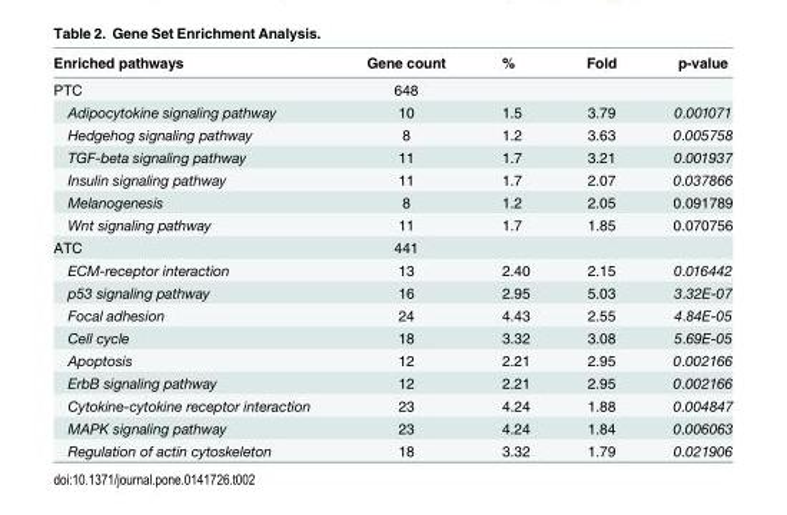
<table><thead><tr><td>Enriched pathways</td><td>Gene count</td><td>%</td><td>Fold</td><td>p-value</td></tr></thead><tbody><tr><td>PTC</td><td>648</td><td></td><td></td><td></td></tr><tr><td>Adipocytokine signaling pathway</td><td>10</td><td>1.5</td><td>3.79</td><td>0.001071</td></tr><tr><td>Hedgehog signaling pathway</td><td>8</td><td>1.2</td><td>3.63</td><td>0.005758</td></tr><tr><td>TGF-beta signaling pathway</td><td>11</td><td>1.7</td><td>3.21</td><td>0.001937</td></tr><tr><td>Insulin signaling pathway</td><td>11</td><td>1.7</td><td>2.07</td><td>0.037866</td></tr><tr><td>Melanogenesis</td><td>8</td><td>1.2</td><td>2.05</td><td>0.091789</td></tr><tr><td>Wnt signaling pathway</td><td>11</td><td>1.7</td><td>1.85</td><td>0.070756</td></tr><tr><td>ATC</td><td>441</td><td></td><td></td><td></td></tr><tr><td>ECM-receptor interaction</td><td>13</td><td>2.40</td><td>2.15</td><td>0.016442</td></tr><tr><td>p53 signaling pathway</td><td>16</td><td>2.95</td><td>5.03</td><td>3.32E-07</td></tr><tr><td>Focal adhesion</td><td>24</td><td>4.43</td><td>2.55</td><td>4.84E-05</td></tr><tr><td>Cell cycle</td><td>18</td><td>3.32</td><td>3.08</td><td>5.69E-05</td></tr><tr><td>Apoptosis</td><td>12</td><td>2.21</td><td>2.95</td><td>0.002166</td></tr><tr><td>ErbB signaling pathway</td><td>12</td><td>2.21</td><td>2.95</td><td>0.002166</td></tr><tr><td>Cytokine-cytokine receptor interaction</td><td>23</td><td>4.24</td><td>1.88</td><td>0.004847</td></tr><tr><td>MAPK signaling pathway</td><td>23</td><td>4.24</td><td>1.84</td><td>0.006063</td></tr><tr><td>Regulation of actin cytoskeleton</td><td>18</td><td>3.32</td><td>1.79</td><td>0.021906</td></tr></tbody></table>